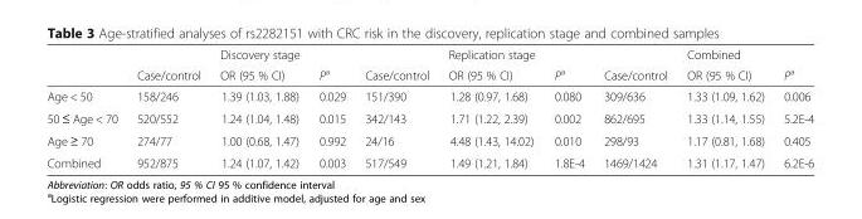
<table><thead><tr><td rowspan="2"></td><td rowspan="2">Case/control</td><td rowspan="2">Discovery stage OR (95 % CI)</td><td rowspan="2">P<sup>a</sup></td><td rowspan="2">Case/control</td><td rowspan="2">Replication stage OR (95 % CI)</td><td rowspan="2">P<sup>a</sup></td><td rowspan="2">Case/control</td><td rowspan="2">Combined OR (95 % CI)</td><td rowspan="2">P<sup>a</sup></td></tr><tr></tr></thead><tbody><tr><td>Age &lt; 50</td><td>158/246</td><td>1.39 (1.03, 1.88)</td><td>0.029</td><td>151/390</td><td>1.28 (0.97, 1.68)</td><td>0.080</td><td>309/636</td><td>1.33 (1.09, 1.62)</td><td>0.006</td></tr><tr><td>50 ≤ Age &lt; 70</td><td>520/552</td><td>1.24 (1.04, 1.48)</td><td>0.015</td><td>342/143</td><td>1.71 (1.22, 2.39)</td><td>0.002</td><td>862/695</td><td>1.33 (1.14, 1.55)</td><td>5.2E-4</td></tr><tr><td>Age ≥ 70</td><td>274/77</td><td>1.00 (0.68, 1.47)</td><td>0.992</td><td>24/16</td><td>4.48 (1.43, 14.02)</td><td>0.010</td><td>298/93</td><td>1.17 (0.81, 1.68)</td><td>0.405</td></tr><tr><td>Combined</td><td>952/875</td><td>1.24 (1.07, 1.42)</td><td>0.003</td><td>517/549</td><td>1.49 (1.21, 1.84)</td><td>1.8E-4</td><td>1469/1424</td><td>1.31 (1.17, 1.47)</td><td>6.2E-6</td></tr></tbody></table>